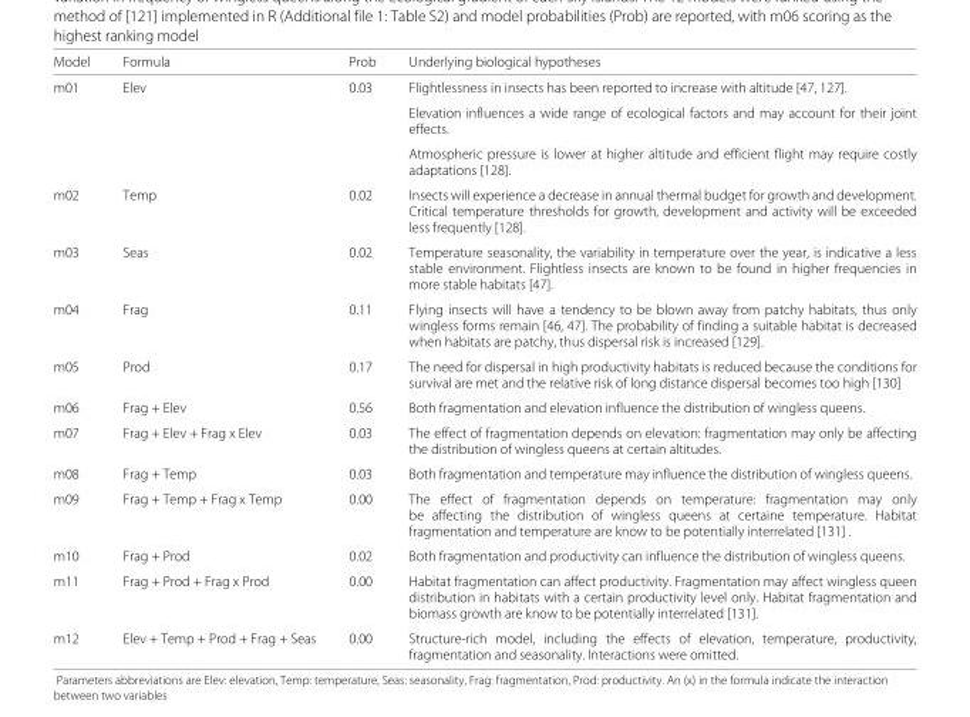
<table><thead><tr><td>Model</td><td>Formula</td><td>Prob</td><td>Underlying biological hypotheses</td></tr></thead><tbody><tr><td rowspan="3">m01</td><td>Elev</td><td>0.03</td><td>Flightlessness in insects has been reported to increase with altitude [47, 127].</td></tr><tr><td></td><td></td><td>Elevation influences a wide range of ecological factors and may account for their joint effects.</td></tr><tr><td></td><td></td><td>Atmospheric pressure is lower at higher altitude and efficient flight may require costly adaptations [128].</td></tr><tr><td>m02</td><td>Temp</td><td>0.02</td><td>Insects will experience a decrease in annual thermal budget for growth and development. Critical temperature thresholds for growth, development and activity will be exceeded less frequently [128].</td></tr><tr><td>m03</td><td>Seas</td><td>0.02</td><td>Temperature seasonality, the variability in temperature over the year, is indicative a less stable environment. Flightless insects are known to be found in higher frequencies in more stable habitats [47].</td></tr><tr><td>m04</td><td>Frag</td><td>0.11</td><td>Flying insects will have a tendency to be blown away from patchy habitats, thus only wingless forms remain [46, 47]. The probability of finding a suitable habitat is decreased when habitats are patchy, thus dispersal risk is increased [129].</td></tr><tr><td>m05</td><td>Prod</td><td>0.17</td><td>The need for dispersal in high productivity habitats is reduced because the conditions for survival are met and the relative risk of long distance dispersal becomes too high [130]</td></tr><tr><td>m06</td><td>Frag + Elev</td><td>0.56</td><td>Both fragmentation and elevation influence the distribution of wingless queens.</td></tr><tr><td>m07</td><td>Frag + Elev + Frag x Elev</td><td>0.03</td><td>The effect of fragmentation depends on elevation: fragmentation may only be affecting the distribution of wingless queens at certain altitudes.</td></tr><tr><td>m08</td><td>Frag + Temp</td><td>0.03</td><td>Both fragmentation and temperature may influence the distribution of wingless queens.</td></tr><tr><td>m09</td><td>Frag + Temp + Frag x Temp</td><td>0.00</td><td>The effect of fragmentation depends on temperature: fragmentation may only be affecting the distribution of wingless queens at certaine temperature. Habitat fragmentation and temperature are know to be potentially interrelated [131] .</td></tr><tr><td>m10</td><td>Frag + Prod</td><td>0.02</td><td>Both fragmentation and productivity can influence the distribution of wingless queens.</td></tr><tr><td>m11</td><td>Frag + Prod + Frag x Prod</td><td>0.00</td><td>Habitat fragmentation can affect productivity. Fragmentation may affect wingless queen distribution in habitats with a certain productivity level only. Habitat fragmentation and biomass growth are know to be potentially interrelated [131].</td></tr><tr><td>m12</td><td>Elev + Temp + Prod + Frag + Seas</td><td>0.00</td><td>Structure-rich model, including the effects of elevation, temperature, productivity, fragmentation and seasonality. Interactions were omitted.</td></tr></tbody></table>